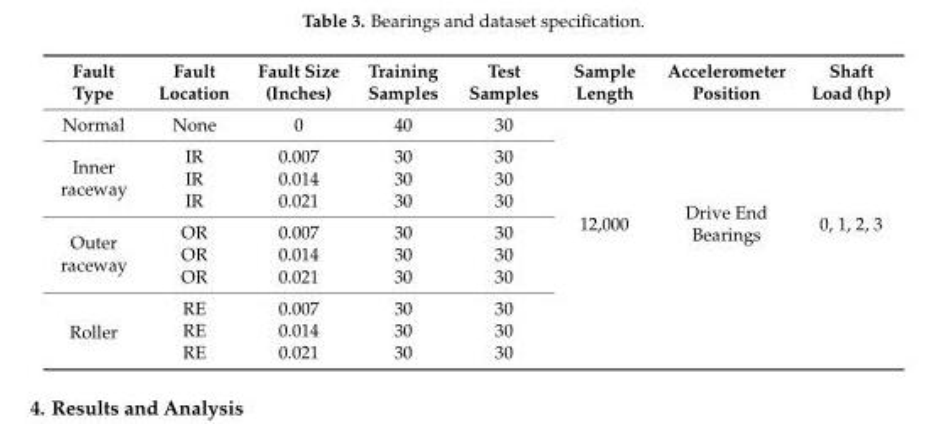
<table><thead><tr><td>Fault Type</td><td>Fault Location</td><td>Fault Size (Inches)</td><td>Training Samples</td><td>Test Samples</td><td>Sample Length</td><td>Accelerometer Position</td><td>Shaft Load (hp)</td></tr></thead><tbody><tr><td>Normal</td><td>None</td><td>0</td><td>40</td><td>30</td><td rowspan="10">12,000</td><td rowspan="10">Drive End Bearings</td><td rowspan="10">0, 1, 2, 3</td></tr><tr><td rowspan="3">Inner raceway</td><td>IR</td><td>0.007</td><td>30</td><td>30</td></tr><tr><td>IR</td><td>0.014</td><td>30</td><td>30</td></tr><tr><td>IR</td><td>0.021</td><td>30</td><td>30</td></tr><tr><td rowspan="3">Outer raceway</td><td>OR</td><td>0.007</td><td>30</td><td>30</td></tr><tr><td>OR</td><td>0.014</td><td>30</td><td>30</td></tr><tr><td>OR</td><td>0.021</td><td>30</td><td>30</td></tr><tr><td rowspan="3">Roller</td><td>RE</td><td>0.007</td><td>30</td><td>30</td></tr><tr><td>RE</td><td>0.014</td><td>30</td><td>30</td></tr><tr><td>RE</td><td>0.021</td><td>30</td><td>30</td></tr></tbody></table>